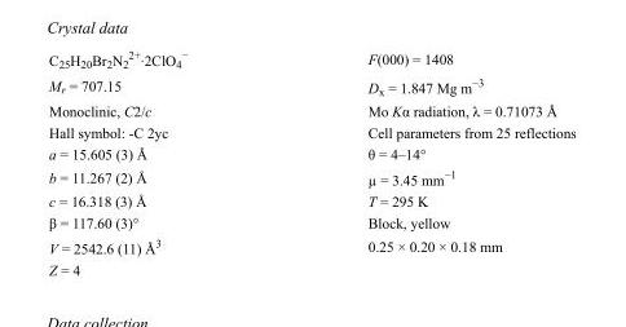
<table><tbody><tr><td>C<sub>25</sub>H<sub>20</sub>Br<sub>2</sub>N<sub>2</sub> <sup>2+</sup>·2ClO<sub>4</sub> <sup>−</sup></td><td>F(000) = 1408</td></tr><tr><td>M<sub>r</sub> = 707.15</td><td>D<sub>x</sub> = 1.847 Mg m<sup>−3</sup></td></tr><tr><td>Monoclinic, C2/c</td><td>Mo Kα radiation, λ = 0.71073 Å</td></tr><tr><td>Hall symbol: -C 2yc</td><td>Cell parameters from 25 reflections</td></tr><tr><td>a = 15.605 (3) Å</td><td>θ = 4–14°</td></tr><tr><td>b = 11.267 (2) Å</td><td>µ = 3.45 mm<sup>−1</sup></td></tr><tr><td>c = 16.318 (3) Å</td><td>T = 295 K</td></tr><tr><td>β = 117.60 (3)°</td><td>Block, yellow</td></tr><tr><td>V = 2542.6 (11) Å<sup>3</sup></td><td>0.25 × 0.20 × 0.18 mm</td></tr><tr><td>Z = 4</td><td></td></tr></tbody></table>